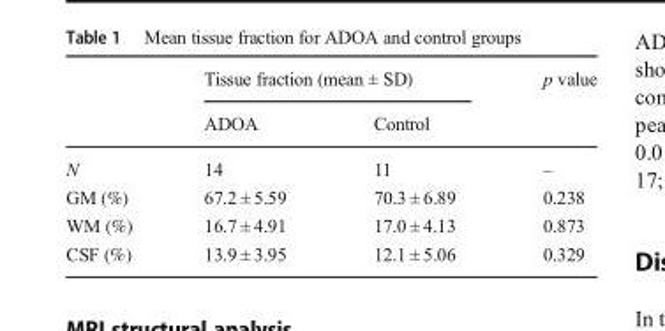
<table><thead><tr><td rowspan="2"></td><td colspan="2">Tissue fraction (mean ± SD)</td><td rowspan="2">p value</td></tr><tr><td>ADOA</td><td>Control</td></tr></thead><tbody><tr><td>N</td><td>14</td><td>11</td><td>–</td></tr><tr><td>GM (%)</td><td>67.2 ± 5.59</td><td>70.3 ± 6.89</td><td>0.238</td></tr><tr><td>WM (%)</td><td>16.7 ± 4.91</td><td>17.0 ± 4.13</td><td>0.873</td></tr><tr><td>CSF (%)</td><td>13.9 ± 3.95</td><td>12.1 ± 5.06</td><td>0.329</td></tr></tbody></table>